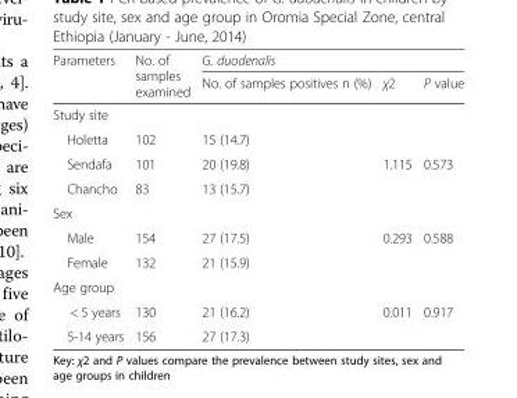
<table><thead><tr><td rowspan="2">Parameters</td><td rowspan="2">No. of samples examined</td><td colspan="3">G. duodenalis</td></tr><tr><td>No. of samples positives n (%)</td><td>χ2</td><td>P value</td></tr></thead><tbody><tr><td colspan="5">Study site</td></tr><tr><td>Holetta</td><td>102</td><td>15 (14.7)</td><td></td><td></td></tr><tr><td>Sendafa</td><td>101</td><td>20 (19.8)</td><td>1.115</td><td>0.573</td></tr><tr><td>Chancho</td><td>83</td><td>13 (15.7)</td><td></td><td></td></tr><tr><td colspan="5">Sex</td></tr><tr><td>Male</td><td>154</td><td>27 (17.5)</td><td rowspan="2">0.293</td><td rowspan="2">0.588</td></tr><tr><td>Female</td><td>132</td><td>21 (15.9)</td></tr><tr><td colspan="5">Age group</td></tr><tr><td>&lt; 5 years</td><td>130</td><td>21 (16.2)</td><td rowspan="2">0.011</td><td rowspan="2">0.917</td></tr><tr><td>5-14 years</td><td>156</td><td>27 (17.3)</td></tr></tbody></table>